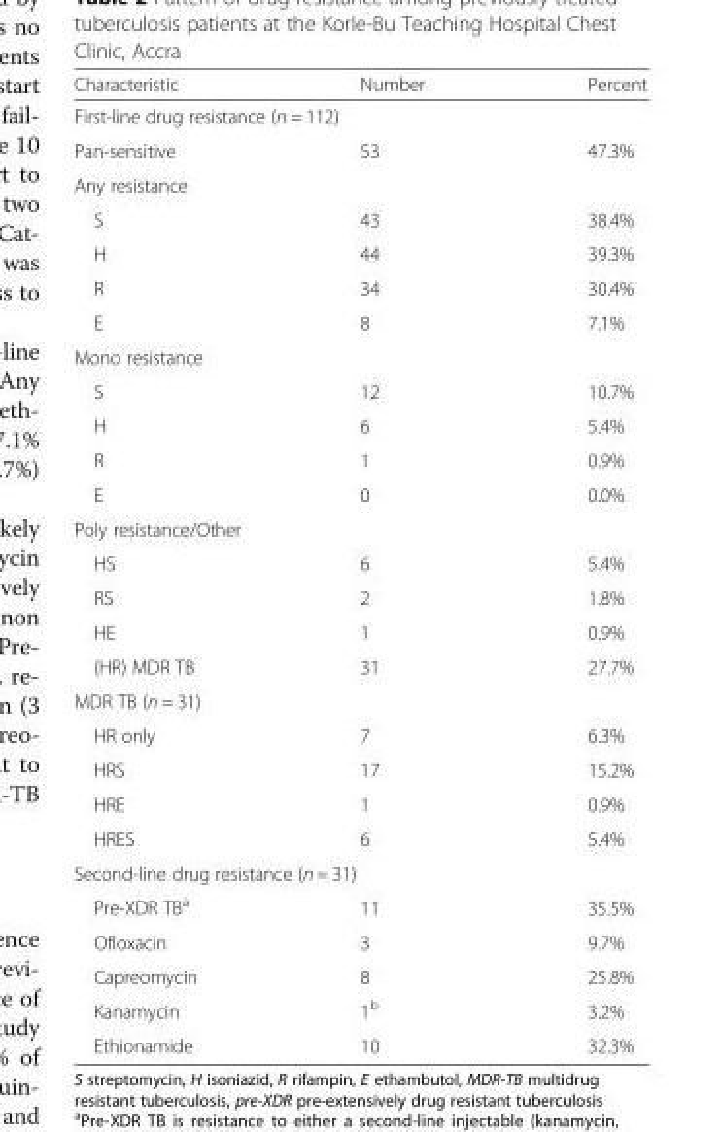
<table><thead><tr><td>Characteristic</td><td>Number</td><td>Percent</td></tr></thead><tbody><tr><td colspan="3">First-line drug resistance (n = 112)</td></tr><tr><td>Pan-sensitive</td><td>53</td><td>47.3%</td></tr><tr><td colspan="3">Any resistance</td></tr><tr><td>S</td><td>43</td><td>38.4%</td></tr><tr><td>H</td><td>44</td><td>39.3%</td></tr><tr><td>R</td><td>34</td><td>30.4%</td></tr><tr><td>E</td><td>8</td><td>7.1%</td></tr><tr><td colspan="3">Mono resistance</td></tr><tr><td>S</td><td>12</td><td>10.7%</td></tr><tr><td>H</td><td>6</td><td>5.4%</td></tr><tr><td>R</td><td>1</td><td>0.9%</td></tr><tr><td>E</td><td>0</td><td>0.0%</td></tr><tr><td colspan="3">Poly resistance/Other</td></tr><tr><td>HS</td><td>6</td><td>5.4%</td></tr><tr><td>RS</td><td>2</td><td>1.8%</td></tr><tr><td>HE</td><td>1</td><td>0.9%</td></tr><tr><td>(HR) MDR TB</td><td>31</td><td>27.7%</td></tr><tr><td colspan="3">MDR TB (n = 31)</td></tr><tr><td>HR only</td><td>7</td><td>6.3%</td></tr><tr><td>HRS</td><td>17</td><td>15.2%</td></tr><tr><td>HRE</td><td>1</td><td>0.9%</td></tr><tr><td>HRES</td><td>6</td><td>5.4%</td></tr><tr><td colspan="3">Second-line drug resistance (n = 31)</td></tr><tr><td>Pre-XDR TB<sup>a</sup></td><td>11</td><td>35.5%</td></tr><tr><td>Ofloxacin</td><td>3</td><td>9.7%</td></tr><tr><td>Capreomycin</td><td>8</td><td>25.8%</td></tr><tr><td>Kanamycin</td><td>1<sup>b</sup></td><td>3.2%</td></tr><tr><td>Ethionamide</td><td>10</td><td>32.3%</td></tr></tbody></table>